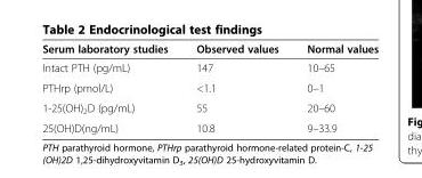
<table><thead><tr><td>Serum laboratory studies</td><td>Observed values</td><td>Normal values</td></tr></thead><tbody><tr><td>Intact PTH (pg/mL)</td><td>147</td><td>10–65</td></tr><tr><td>PTHrp (pmol/L)</td><td>&lt;1.1</td><td>0–1</td></tr><tr><td>1-25(OH)<sub>2</sub>D (pg/mL)</td><td>55</td><td>20–60</td></tr><tr><td>25(OH)D(ng/mL)</td><td>10.8</td><td>9–33.9</td></tr></tbody></table>